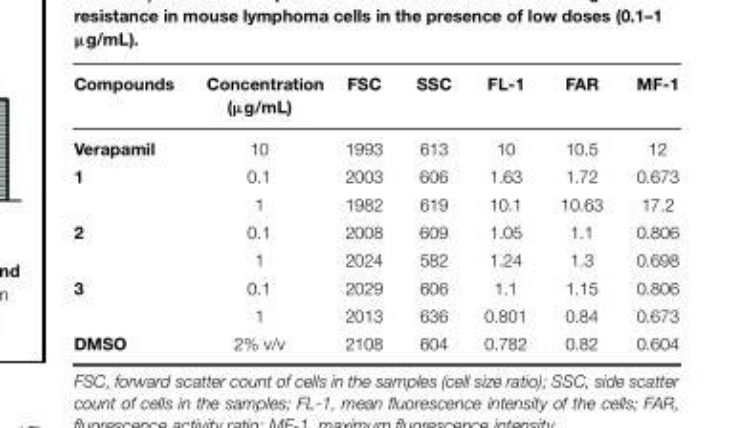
<table><thead><tr><td>Compounds</td><td>Concentration (μg/mL)</td><td>FSC</td><td>SSC</td><td>FL-1</td><td>FAR</td><td>MF-1</td></tr></thead><tbody><tr><td>Verapamil</td><td>10</td><td>1993</td><td>613</td><td>10</td><td>10.5</td><td>12</td></tr><tr><td rowspan="2">1</td><td>0.1</td><td>2003</td><td>606</td><td>1.63</td><td>1.72</td><td>0.673</td></tr><tr><td>1</td><td>1982</td><td>619</td><td>10.1</td><td>10.63</td><td>17.2</td></tr><tr><td rowspan="2">2</td><td>0.1</td><td>2008</td><td>609</td><td>1.05</td><td>1.1</td><td>0.806</td></tr><tr><td>1</td><td>2024</td><td>582</td><td>1.24</td><td>1.3</td><td>0.698</td></tr><tr><td rowspan="2">3</td><td>0.1</td><td>2029</td><td>606</td><td>1.1</td><td>1.15</td><td>0.806</td></tr><tr><td>1</td><td>2013</td><td>636</td><td>0.801</td><td>0.84</td><td>0.673</td></tr><tr><td>DMSO</td><td>2% v/v</td><td>2108</td><td>604</td><td>0.782</td><td>0.82</td><td>0.604</td></tr></tbody></table>